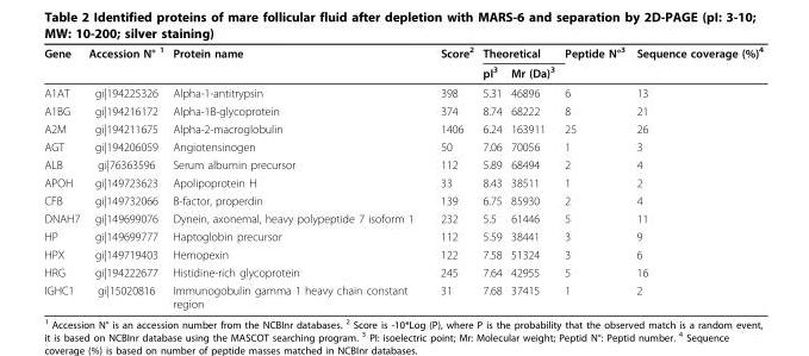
<table><thead><tr><td rowspan="2">Gene</td><td rowspan="2">Accession N° <sup>1</sup></td><td rowspan="2">Protein name</td><td rowspan="2">Score<sup>2</sup></td><td colspan="2">Theoretical</td><td rowspan="2">Peptide N°<sup>3</sup></td><td rowspan="2">Sequence coverage (%)<sup>4</sup></td></tr><tr><td>pI<sup>3</sup></td><td>Mr (Da)<sup>3</sup></td></tr></thead><tbody><tr><td>A1AT</td><td>gi|194225326</td><td>Alpha-1-antitrypsin</td><td>398</td><td>5.31</td><td>46896</td><td>6</td><td>13</td></tr><tr><td>A1BG</td><td>gi|194216172</td><td>Alpha-1B-glycoprotein</td><td>374</td><td>8.74</td><td>68222</td><td>8</td><td>21</td></tr><tr><td>A2M</td><td>gi|194211675</td><td>Alpha-2-macroglobulin</td><td>1406</td><td>6.24</td><td>163911</td><td>25</td><td>26</td></tr><tr><td>AGT</td><td>gi|194206059</td><td>Angiotensinogen</td><td>50</td><td>7.06</td><td>70056</td><td>1</td><td>3</td></tr><tr><td>ALB</td><td>gi|76363596</td><td>Serum albumin precursor</td><td>112</td><td>5.89</td><td>68494</td><td>2</td><td>4</td></tr><tr><td>APOH</td><td>gi|149723623</td><td>Apolipoprotein H</td><td>33</td><td>8.43</td><td>38511</td><td>1</td><td>2</td></tr><tr><td>CFB</td><td>gi|149732066</td><td>B-factor, properdin</td><td>139</td><td>6.75</td><td>85930</td><td>2</td><td>4</td></tr><tr><td>DNAH7</td><td>gi|149699076</td><td>Dynein, axonemal, heavy polypeptide 7 isoform 1</td><td>232</td><td>5.5</td><td>61446</td><td>5</td><td>11</td></tr><tr><td>HP</td><td>gi|149699777</td><td>Haptoglobin precursor</td><td>112</td><td>5.59</td><td>38441</td><td>3</td><td>9</td></tr><tr><td>HPX</td><td>gi|149719403</td><td>Hemopexin</td><td>122</td><td>7.58</td><td>51324</td><td>3</td><td>6</td></tr><tr><td>HRG</td><td>gi|194222677</td><td>Histidine-rich glycoprotein</td><td>245</td><td>7.64</td><td>42955</td><td>5</td><td>16</td></tr><tr><td>IGHC1</td><td>gi|15020816</td><td>Immunogobulin gamma 1 heavy chain constant region</td><td>31</td><td>7.68</td><td>37415</td><td>1</td><td>2</td></tr></tbody></table>